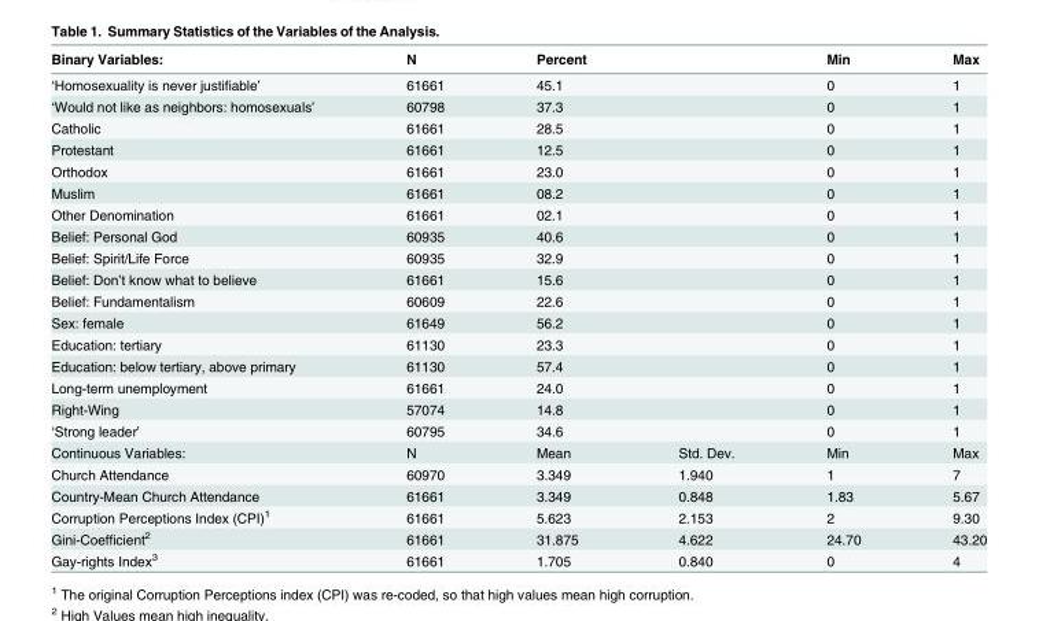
<table><thead><tr><td>Binary Variables:</td><td>N</td><td>Percent</td><td></td><td>Min</td><td>Max</td></tr></thead><tbody><tr><td>‘Homosexuality is never justifiable’</td><td>61661</td><td>45.1</td><td></td><td>0</td><td>1</td></tr><tr><td>‘Would not like as neighbors: homosexuals’</td><td>60798</td><td>37.3</td><td></td><td>0</td><td>1</td></tr><tr><td>Catholic</td><td>61661</td><td>28.5</td><td></td><td>0</td><td>1</td></tr><tr><td>Protestant</td><td>61661</td><td>12.5</td><td></td><td>0</td><td>1</td></tr><tr><td>Orthodox</td><td>61661</td><td>23.0</td><td></td><td>0</td><td>1</td></tr><tr><td>Muslim</td><td>61661</td><td>08.2</td><td></td><td>0</td><td>1</td></tr><tr><td>Other Denomination</td><td>61661</td><td>02.1</td><td></td><td>0</td><td>1</td></tr><tr><td>Belief: Personal God</td><td>60935</td><td>40.6</td><td></td><td>0</td><td>1</td></tr><tr><td>Belief: Spirit/Life Force</td><td>60935</td><td>32.9</td><td></td><td>0</td><td>1</td></tr><tr><td>Belief: Don’t know what to believe</td><td>61661</td><td>15.6</td><td></td><td>0</td><td>1</td></tr><tr><td>Belief: Fundamentalism</td><td>60609</td><td>22.6</td><td></td><td>0</td><td>1</td></tr><tr><td>Sex: female</td><td>61649</td><td>56.2</td><td></td><td>0</td><td>1</td></tr><tr><td>Education: tertiary</td><td>61130</td><td>23.3</td><td></td><td>0</td><td>1</td></tr><tr><td>Education: below tertiary, above primary</td><td>61130</td><td>57.4</td><td></td><td>0</td><td>1</td></tr><tr><td>Long-term unemployment</td><td>61661</td><td>24.0</td><td></td><td>0</td><td>1</td></tr><tr><td>Right-Wing</td><td>57074</td><td>14.8</td><td></td><td>0</td><td>1</td></tr><tr><td>‘Strong leader’</td><td>60795</td><td>34.6</td><td></td><td>0</td><td>1</td></tr><tr><td>Continuous Variables:</td><td>N</td><td>Mean</td><td>Std. Dev.</td><td>Min</td><td>Max</td></tr><tr><td>Church Attendance</td><td>60970</td><td>3.349</td><td>1.940</td><td>1</td><td>7</td></tr><tr><td>Country-Mean Church Attendance</td><td>61661</td><td>3.349</td><td>0.848</td><td>1.83</td><td>5.67</td></tr><tr><td>Corruption Perceptions Index (CPI)<sup>1</sup></td><td>61661</td><td>5.623</td><td>2.153</td><td>2</td><td>9.30</td></tr><tr><td>Gini-Coefficient<sup>2</sup></td><td>61661</td><td>31.875</td><td>4.622</td><td>24.70</td><td>43.20</td></tr><tr><td>Gay-rights Index<sup>3</sup></td><td>61661</td><td>1.705</td><td>0.840</td><td>0</td><td>4</td></tr></tbody></table>